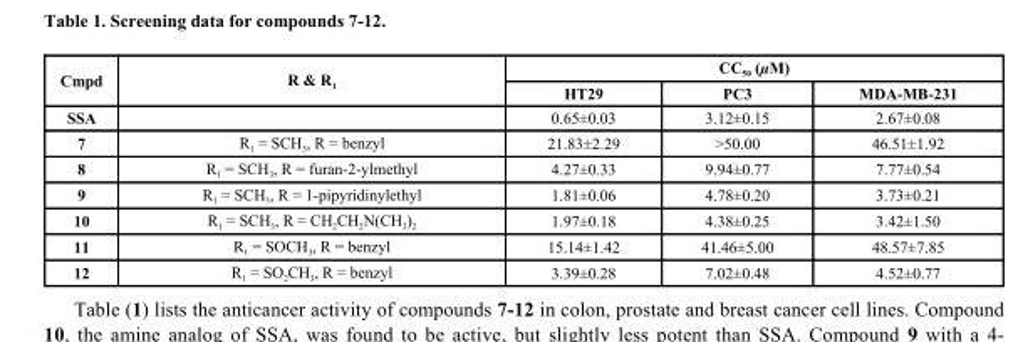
<table><thead><tr><td rowspan="2">Cmpd</td><td rowspan="2">R &amp; R<sub>1</sub></td><td colspan="3">CC<sub>50</sub> (µM)</td></tr><tr><td>HT29</td><td>PC3</td><td>MDA-MB-231</td></tr></thead><tbody><tr><td>SSA</td><td></td><td>0.65±0.03</td><td>3.12±0.15</td><td>2.67±0.08</td></tr><tr><td>7</td><td>R<sub>1</sub> = SCH<sub>3</sub>, R = benzyl</td><td>21.83±2.29</td><td>&gt;50.00</td><td>46.51±1.92</td></tr><tr><td>8</td><td>R<sub>1</sub> = SCH<sub>3</sub>, R = furan-2-ylmethyl</td><td>4.27±0.33</td><td>9.94±0.77</td><td>7.77±0.54</td></tr><tr><td>9</td><td>R<sub>1</sub> = SCH<sub>3</sub>, R = 1-pipyridinylethyl</td><td>1.81±0.06</td><td>4.78±0.20</td><td>3.73±0.21</td></tr><tr><td>10</td><td>R<sub>1</sub> = SCH<sub>3</sub>, R = CH<sub>2</sub>CH<sub>2</sub>N(CH<sub>3</sub>)<sub>2</sub></td><td>1.97±0.18</td><td>4.38±0.25</td><td>3.42±1.50</td></tr><tr><td>11</td><td>R<sub>1</sub> = SOCH<sub>3</sub>, R = benzyl</td><td>15.14±1.42</td><td>41.46±5.00</td><td>48.57±7.85</td></tr><tr><td>12</td><td>R<sub>1</sub> = SO<sub>2</sub>CH<sub>3</sub>, R = benzyl</td><td>3.39±0.28</td><td>7.02±0.48</td><td>4.52±0.77</td></tr></tbody></table>